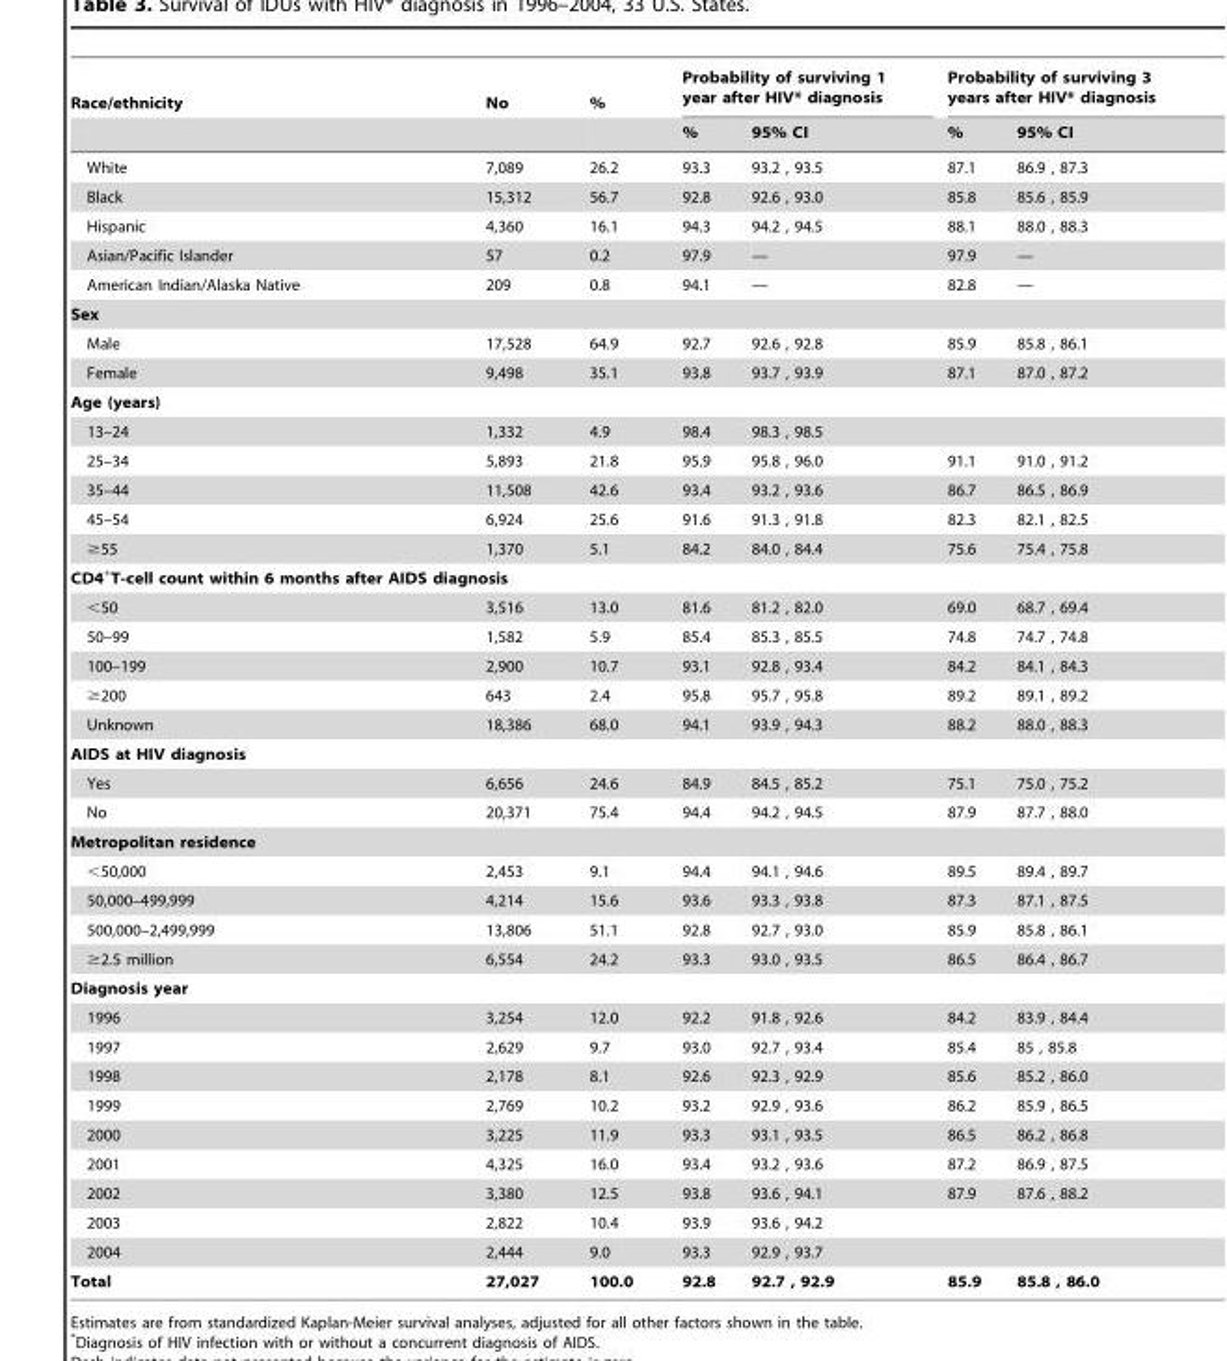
<table><thead><tr><td rowspan="2">Race/ethnicity</td><td rowspan="2">No</td><td rowspan="2">%</td><td colspan="2">Probability of surviving 1 year after HIV* diagnosis</td><td colspan="2">Probability of surviving 3 years after HIV* diagnosis</td></tr><tr><td>%</td><td>95% CI</td><td>%</td><td>95% CI</td></tr></thead><tbody><tr><td>White</td><td>7,089</td><td>26.2</td><td>93.3</td><td>93.2 , 93.5</td><td>87.1</td><td>86.9 , 87.3</td></tr><tr><td>Black</td><td>15,312</td><td>56.7</td><td>92.8</td><td>92.6 , 93.0</td><td>85.8</td><td>85.6 , 85.9</td></tr><tr><td>Hispanic</td><td>4,360</td><td>16.1</td><td>94.3</td><td>94.2 , 94.5</td><td>88.1</td><td>88.0 , 88.3</td></tr><tr><td>Asian/Pacific Islander</td><td>57</td><td>0.2</td><td>97.9</td><td>—</td><td>97.9</td><td>—</td></tr><tr><td>American Indian/Alaska Native</td><td>209</td><td>0.8</td><td>94.1</td><td>—</td><td>82.8</td><td>—</td></tr><tr><td colspan="7">Sex</td></tr><tr><td>Male</td><td>17,528</td><td>64.9</td><td>92.7</td><td>92.6 , 92.8</td><td>85.9</td><td>85.8 , 86.1</td></tr><tr><td>Female</td><td>9,498</td><td>35.1</td><td>93.8</td><td>93.7 , 93.9</td><td>87.1</td><td>87.0 , 87.2</td></tr><tr><td colspan="7">Age (years)</td></tr><tr><td>13–24</td><td>1,332</td><td>4.9</td><td>98.4</td><td>98.3 , 98.5</td><td></td><td></td></tr><tr><td>25–34</td><td>5,893</td><td>21.8</td><td>95.9</td><td>95.8 , 96.0</td><td>91.1</td><td>91.0 , 91.2</td></tr><tr><td>35–44</td><td>11,508</td><td>42.6</td><td>93.4</td><td>93.2 , 93.6</td><td>86.7</td><td>86.5 , 86.9</td></tr><tr><td>45–54</td><td>6,924</td><td>25.6</td><td>91.6</td><td>91.3 , 91.8</td><td>82.3</td><td>82.1 , 82.5</td></tr><tr><td>≥55</td><td>1,370</td><td>5.1</td><td>84.2</td><td>84.0 , 84.4</td><td>75.6</td><td>75.4 , 75.8</td></tr><tr><td colspan="7">CD4<sup>+</sup>T-cell count within 6 months after AIDS diagnosis</td></tr><tr><td>&lt;50</td><td>3,516</td><td>13.0</td><td>81.6</td><td>81.2 , 82.0</td><td>69.0</td><td>68.7 , 69.4</td></tr><tr><td>50–99</td><td>1,582</td><td>5.9</td><td>85.4</td><td>85.3 , 85.5</td><td>74.8</td><td>74.7 , 74.8</td></tr><tr><td>100–199</td><td>2,900</td><td>10.7</td><td>93.1</td><td>92.8 , 93.4</td><td>84.2</td><td>84.1 , 84.3</td></tr><tr><td>≥200</td><td>643</td><td>2.4</td><td>95.8</td><td>95.7 , 95.8</td><td>89.2</td><td>89.1 , 89.2</td></tr><tr><td>Unknown</td><td>18,386</td><td>68.0</td><td>94.1</td><td>93.9 , 94.3</td><td>88.2</td><td>88.0 , 88.3</td></tr><tr><td colspan="7">AIDS at HIV diagnosis</td></tr><tr><td>Yes</td><td>6,656</td><td>24.6</td><td>84.9</td><td>84.5 , 85.2</td><td>75.1</td><td>75.0 , 75.2</td></tr><tr><td>No</td><td>20,371</td><td>75.4</td><td>94.4</td><td>94.2 , 94.5</td><td>87.9</td><td>87.7 , 88.0</td></tr><tr><td colspan="7">Metropolitan residence</td></tr><tr><td>&lt;50,000</td><td>2,453</td><td>9.1</td><td>94.4</td><td>94.1 , 94.6</td><td>89.5</td><td>89.4 , 89.7</td></tr><tr><td>50,000–499,999</td><td>4,214</td><td>15.6</td><td>93.6</td><td>93.3 , 93.8</td><td>87.3</td><td>87.1 , 87.5</td></tr><tr><td>500,000–2,499,999</td><td>13,806</td><td>51.1</td><td>92.8</td><td>92.7 , 93.0</td><td>85.9</td><td>85.8 , 86.1</td></tr><tr><td>≥2.5 million</td><td>6,554</td><td>24.2</td><td>93.3</td><td>93.0 , 93.5</td><td>86.5</td><td>86.4 , 86.7</td></tr><tr><td colspan="7">Diagnosis year</td></tr><tr><td>1996</td><td>3,254</td><td>12.0</td><td>92.2</td><td>91.8 , 92.6</td><td>84.2</td><td>83.9 , 84.4</td></tr><tr><td>1997</td><td>2,629</td><td>9.7</td><td>93.0</td><td>92.7 , 93.4</td><td>85.4</td><td>85 , 85.8</td></tr><tr><td>1998</td><td>2,178</td><td>8.1</td><td>92.6</td><td>92.3 , 92.9</td><td>85.6</td><td>85.2 , 86.0</td></tr><tr><td>1999</td><td>2,769</td><td>10.2</td><td>93.2</td><td>92.9 , 93.6</td><td>86.2</td><td>85.9 , 86.5</td></tr><tr><td>2000</td><td>3,225</td><td>11.9</td><td>93.3</td><td>93.1 , 93.5</td><td>86.5</td><td>86.2 , 86.8</td></tr><tr><td>2001</td><td>4,325</td><td>16.0</td><td>93.4</td><td>93.2 , 93.6</td><td>87.2</td><td>86.9 , 87.5</td></tr><tr><td>2002</td><td>3,380</td><td>12.5</td><td>93.8</td><td>93.6 , 94.1</td><td>87.9</td><td>87.6 , 88.2</td></tr><tr><td>2003</td><td>2,822</td><td>10.4</td><td>93.9</td><td>93.6 , 94.2</td><td></td><td></td></tr><tr><td>2004</td><td>2,444</td><td>9.0</td><td>93.3</td><td>92.9 , 93.7</td><td></td><td></td></tr><tr><td>Total</td><td>27,027</td><td>100.0</td><td>92.8</td><td>92.7 , 92.9</td><td>85.9</td><td>85.8 , 86.0</td></tr></tbody></table>